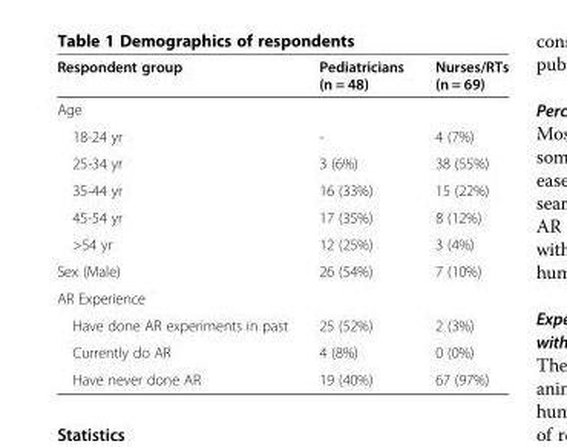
<table><thead><tr><td>Respondent group</td><td>Pediatricians (n = 48)</td><td>Nurses/RTs (n = 69)</td></tr></thead><tbody><tr><td colspan="3">Age</td></tr><tr><td>18-24 yr</td><td>-</td><td>4 (7%)</td></tr><tr><td>25-34 yr</td><td>3 (6%)</td><td>38 (55%)</td></tr><tr><td>35-44 yr</td><td>16 (33%)</td><td>15 (22%)</td></tr><tr><td>45-54 yr</td><td>17 (35%)</td><td>8 (12%)</td></tr><tr><td>&gt;54 yr</td><td>12 (25%)</td><td>3 (4%)</td></tr><tr><td>Sex (Male)</td><td>26 (54%)</td><td>7 (10%)</td></tr><tr><td colspan="3">AR Experience</td></tr><tr><td>Have done AR experiments in past</td><td>25 (52%)</td><td>2 (3%)</td></tr><tr><td>Currently do AR</td><td>4 (8%)</td><td>0 (0%)</td></tr><tr><td>Have never done AR</td><td>19 (40%)</td><td>67 (97%)</td></tr></tbody></table>